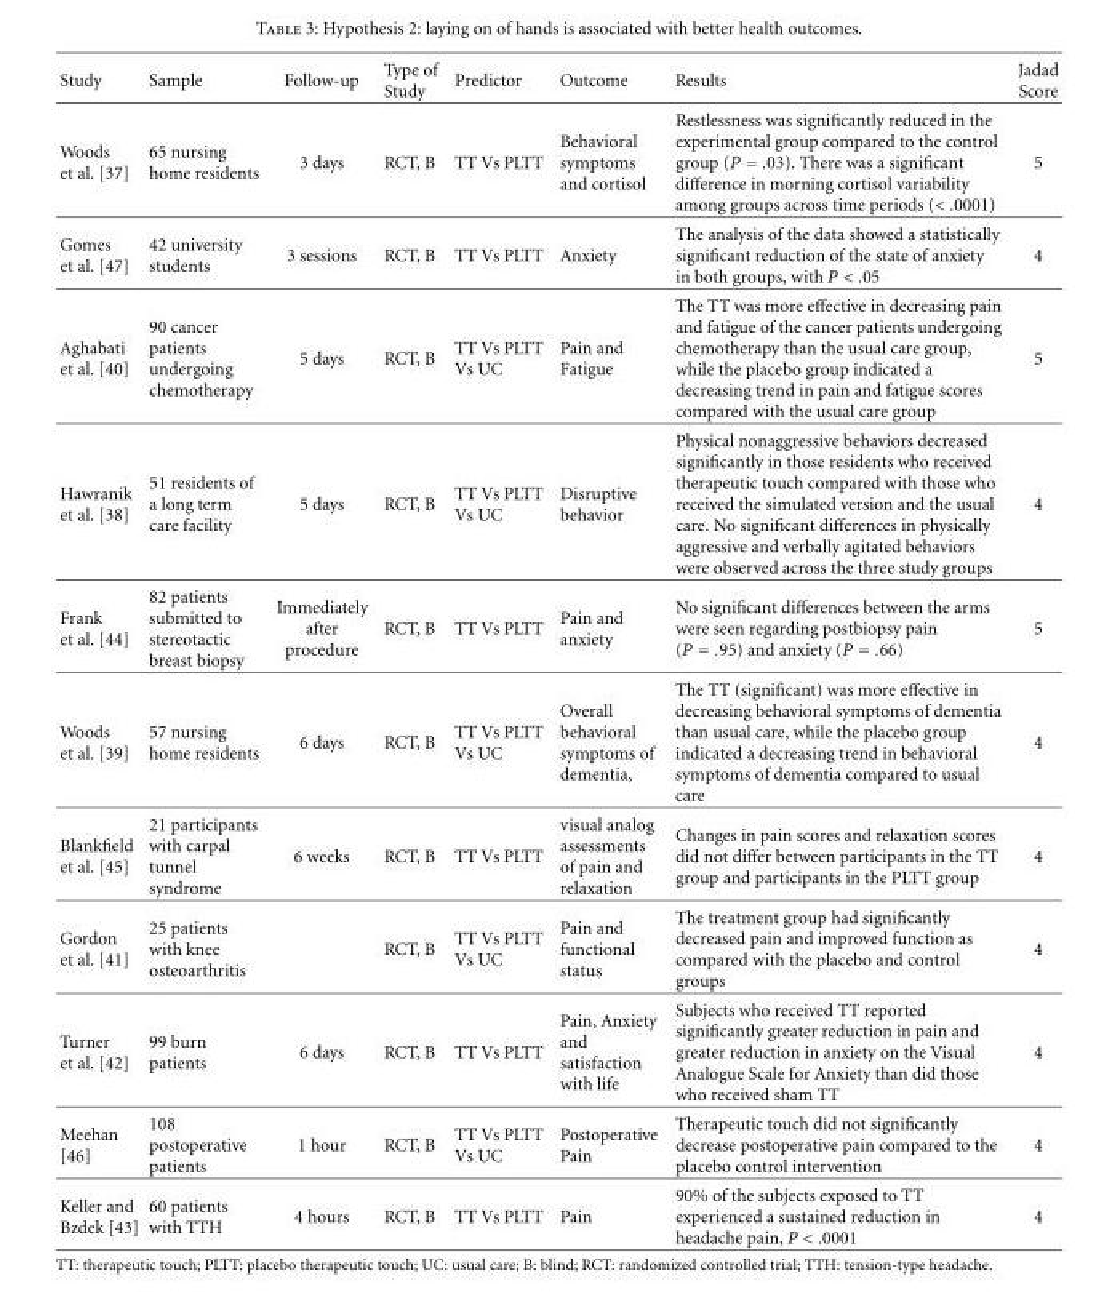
<table><thead><tr><td>Study</td><td>Sample</td><td>Follow-up</td><td>Type of Study</td><td>Predictor</td><td>Outcome</td><td>Results</td><td>Jadad Score</td></tr></thead><tbody><tr><td>Woods et al. [37]</td><td>65 nursing home residents</td><td>3 days</td><td>RCT, B</td><td>TT Vs PLTT</td><td>Behavioral symptoms and cortisol</td><td>Restlessness was significantly reduced in the experimental group compared to the control group (P = .03). There was a significant difference in morning cortisol variability among groups across time periods (&lt; .0001)</td><td>5</td></tr><tr><td>Gomes et al. [47]</td><td>42 university students</td><td>3 sessions</td><td>RCT, B</td><td>TT Vs PLTT</td><td>Anxiety</td><td>The analysis of the data showed a statistically significant reduction of the state of anxiety in both groups, with P &lt; .05</td><td>4</td></tr><tr><td>Aghabati et al. [40]</td><td>90 cancer patients undergoing chemotherapy</td><td>5 days</td><td>RCT, B</td><td>TT Vs PLTT Vs UC</td><td>Pain and Fatigue</td><td>The TT was more effective in decreasing pain and fatigue of the cancer patients undergoing chemotherapy than the usual care group, while the placebo group indicated a decreasing trend in pain and fatigue scores compared with the usual care group</td><td>5</td></tr><tr><td>Hawranik et al. [38]</td><td>51 residents of a long term care facility</td><td>5 days</td><td>RCT, B</td><td>TT Vs PLTT Vs UC</td><td>Disruptive behavior</td><td>Physical nonaggressive behaviors decreased significantly in those residents who received therapeutic touch compared with those who received the simulated version and the usual care. No significant differences in physically aggressive and verbally agitated behaviors were observed across the three study groups</td><td>4</td></tr><tr><td>Frank et al. [44]</td><td>82 patients submitted to stereotactic breast biopsy</td><td>Immediately after procedure</td><td>RCT, B</td><td>TT Vs PLTT</td><td>Pain and anxiety</td><td>No significant differences between the arms were seen regarding postbiopsy pain (P = .95) and anxiety (P = .66)</td><td>5</td></tr><tr><td>Woods et al. [39]</td><td>57 nursing home residents</td><td>6 days</td><td>RCT, B</td><td>TT Vs PLTT Vs UC</td><td>Overall behavioral symptoms of dementia,</td><td>The TT (significant) was more effective in decreasing behavioral symptoms of dementia than usual care, while the placebo group indicated a decreasing trend in behavioral symptoms of dementia compared to usual care</td><td>4</td></tr><tr><td>Blankfield et al. [45]</td><td>21 participants with carpal tunnel syndrome</td><td>6 weeks</td><td>RCT, B</td><td>TT Vs PLTT</td><td>visual analog assessments of pain and relaxation</td><td>Changes in pain scores and relaxation scores did not differ between participants in the TT group and participants in the PLTT group</td><td>4</td></tr><tr><td>Gordon et al. [41]</td><td>25 patients with knee osteoarthritis</td><td></td><td>RCT, B</td><td>TT Vs PLTT Vs UC</td><td>Pain and functional status</td><td>The treatment group had significantly decreased pain and improved function as compared with the placebo and control groups</td><td>4</td></tr><tr><td>Turner et al. [42]</td><td>99 burn patients</td><td>6 days</td><td>RCT, B</td><td>TT Vs PLTT</td><td>Pain, Anxiety and satisfaction with life</td><td>Subjects who received TT reported significantly greater reduction in pain and greater reduction in anxiety on the Visual Analogue Scale for Anxiety than did those who received sham TT</td><td>4</td></tr><tr><td>Meehan [46]</td><td>108 postoperative patients</td><td>1 hour</td><td>RCT, B</td><td>TT Vs PLTT Vs UC</td><td>Postoperative Pain</td><td>Therapeutic touch did not significantly decrease postoperative pain compared to the placebo control intervention</td><td>4</td></tr><tr><td>Keller and Bzdek [43]</td><td>60 patients with TTH</td><td>4 hours</td><td>RCT, B</td><td>TT Vs PLTT</td><td>Pain</td><td>90% of the subjects exposed to TT experienced a sustained reduction in headache pain, P &lt; .0001</td><td>4</td></tr></tbody></table>